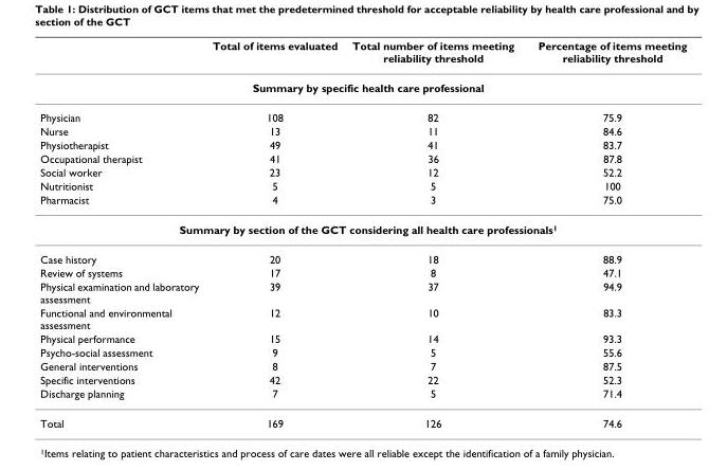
<table><thead><tr><td></td><td>Total of items evaluated</td><td>Total number of items meeting reliability threshold</td><td>Percentage of items meeting reliability threshold</td></tr></thead><tbody><tr><td colspan="4">Summary by specific health care professional</td></tr><tr><td>Physician</td><td>108</td><td>82</td><td>75.9</td></tr><tr><td>Nurse</td><td>13</td><td>11</td><td>84.6</td></tr><tr><td>Physiotherapist</td><td>49</td><td>41</td><td>83.7</td></tr><tr><td>Occupational therapist</td><td>41</td><td>36</td><td>87.8</td></tr><tr><td>Social worker</td><td>23</td><td>12</td><td>52.2</td></tr><tr><td>Nutritionist</td><td>5</td><td>5</td><td>100</td></tr><tr><td>Pharmacist</td><td>4</td><td>3</td><td>75.0</td></tr><tr><td colspan="4">Summary by section of the GCT considering all health care professionals<sup>1</sup></td></tr><tr><td>Case history</td><td>20</td><td>18</td><td>88.9</td></tr><tr><td>Review of systems</td><td>17</td><td>8</td><td>47.1</td></tr><tr><td>Physical examination and laboratory assessment</td><td>39</td><td>37</td><td>94.9</td></tr><tr><td>Functional and environmental assessment</td><td>12</td><td>10</td><td>83.3</td></tr><tr><td>Physical performance</td><td>15</td><td>14</td><td>93.3</td></tr><tr><td>Psycho-social assessment</td><td>9</td><td>5</td><td>55.6</td></tr><tr><td>General interventions</td><td>8</td><td>7</td><td>87.5</td></tr><tr><td>Specific interventions</td><td>42</td><td>22</td><td>52.3</td></tr><tr><td>Discharge planning</td><td>7</td><td>5</td><td>71.4</td></tr><tr><td>Total</td><td>169</td><td>126</td><td>74.6</td></tr></tbody></table>